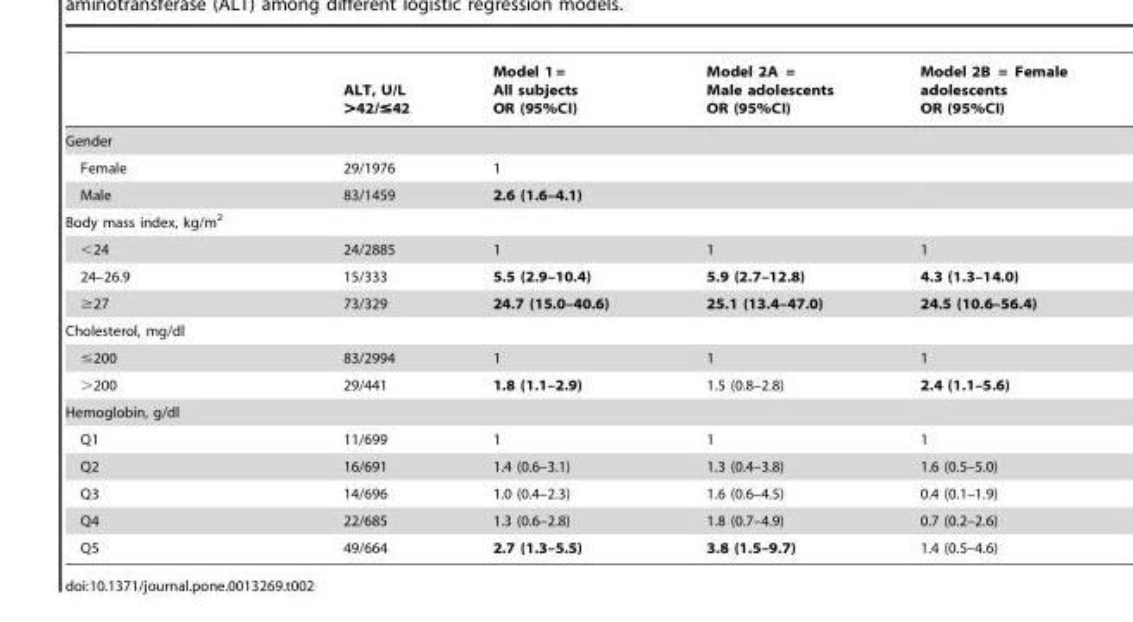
<table><thead><tr><td></td><td>ALT, U/L &gt;42/≤42</td><td>Model 1 = All subjects OR (95%CI)</td><td>Model 2A = Male adolescents OR (95%CI)</td><td>Model 2B = Female adolescents OR (95%CI)</td></tr></thead><tbody><tr><td colspan="5">Gender</td></tr><tr><td>Female</td><td>29/1976</td><td>1</td><td></td><td></td></tr><tr><td>Male</td><td>83/1459</td><td>2.6 (1.6–4.1)</td><td></td><td></td></tr><tr><td colspan="5">Body mass index, kg/m<sup>2</sup></td></tr><tr><td>&lt;24</td><td>24/2885</td><td>1</td><td>1</td><td>1</td></tr><tr><td>24–26.9</td><td>15/333</td><td>5.5 (2.9–10.4)</td><td>5.9 (2.7–12.8)</td><td>4.3 (1.3–14.0)</td></tr><tr><td>≥27</td><td>73/329</td><td>24.7 (15.0–40.6)</td><td>25.1 (13.4–47.0)</td><td>24.5 (10.6–56.4)</td></tr><tr><td colspan="5">Cholesterol, mg/dl</td></tr><tr><td>≤200</td><td>83/2994</td><td>1</td><td>1</td><td>1</td></tr><tr><td>&gt;200</td><td>29/441</td><td>1.8 (1.1–2.9)</td><td>1.5 (0.8–2.8)</td><td>2.4 (1.1–5.6)</td></tr><tr><td colspan="5">Hemoglobin, g/dl</td></tr><tr><td>Q1</td><td>11/699</td><td>1</td><td>1</td><td>1</td></tr><tr><td>Q2</td><td>16/691</td><td>1.4 (0.6–3.1)</td><td>1.3 (0.4–3.8)</td><td>1.6 (0.5–5.0)</td></tr><tr><td>Q3</td><td>14/696</td><td>1.0 (0.4–2.3)</td><td>1.6 (0.6–4.5)</td><td>0.4 (0.1–1.9)</td></tr><tr><td>Q4</td><td>22/685</td><td>1.3 (0.6–2.8)</td><td>1.8 (0.7–4.9)</td><td>0.7 (0.2–2.6)</td></tr><tr><td>Q5</td><td>49/664</td><td>2.7 (1.3–5.5)</td><td>3.8 (1.5–9.7)</td><td>1.4 (0.5–4.6)</td></tr></tbody></table>